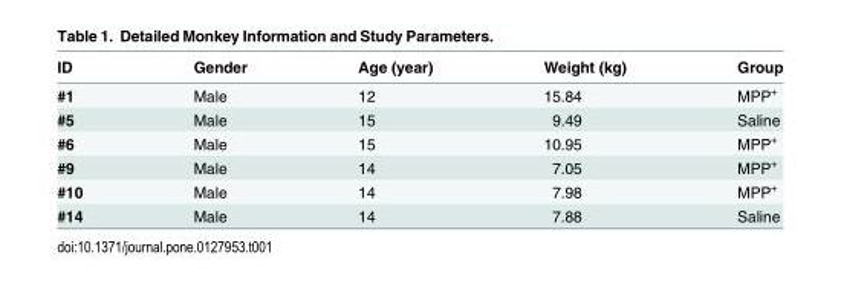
<table><thead><tr><td>ID</td><td>Gender</td><td>Age (year)</td><td>Weight (kg)</td><td>Group</td></tr></thead><tbody><tr><td>#1</td><td>Male</td><td>12</td><td>15.84</td><td>MPP<sup>+</sup></td></tr><tr><td>#5</td><td>Male</td><td>15</td><td>9.49</td><td>Saline</td></tr><tr><td>#6</td><td>Male</td><td>15</td><td>10.95</td><td>MPP<sup>+</sup></td></tr><tr><td>#9</td><td>Male</td><td>14</td><td>7.05</td><td>MPP<sup>+</sup></td></tr><tr><td>#10</td><td>Male</td><td>14</td><td>7.98</td><td>MPP<sup>+</sup></td></tr><tr><td>#14</td><td>Male</td><td>14</td><td>7.88</td><td>Saline</td></tr></tbody></table>